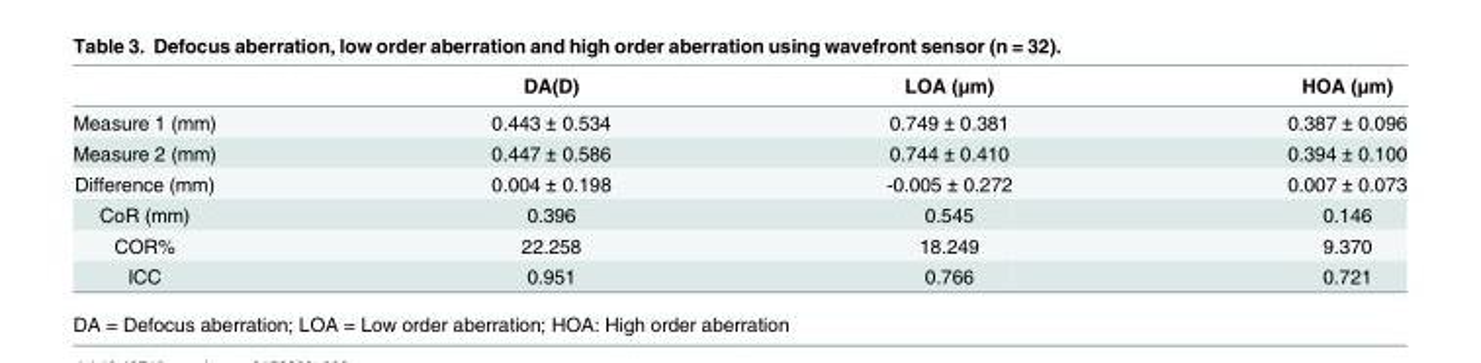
<table><thead><tr><td></td><td>DA(D)</td><td>LOA (μm)</td><td>HOA (μm)</td></tr></thead><tbody><tr><td>Measure 1 (mm)</td><td>0.443 ± 0.534</td><td>0.749 ± 0.381</td><td>0.387 ± 0.096</td></tr><tr><td>Measure 2 (mm)</td><td>0.447 ± 0.586</td><td>0.744 ± 0.410</td><td>0.394 ± 0.100</td></tr><tr><td>Difference (mm)</td><td>0.004 ± 0.198</td><td>-0.005 ± 0.272</td><td>0.007 ± 0.073</td></tr><tr><td>CoR (mm)</td><td>0.396</td><td>0.545</td><td>0.146</td></tr><tr><td>COR%</td><td>22.258</td><td>18.249</td><td>9.370</td></tr><tr><td>ICC</td><td>0.951</td><td>0.766</td><td>0.721</td></tr></tbody></table>